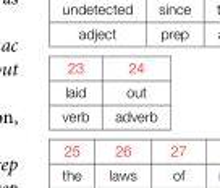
<table><tbody><tr><td>23</td><td>24</td></tr><tr><td>laid</td><td>out</td></tr><tr><td>verb</td><td>adverb</td></tr></tbody></table>